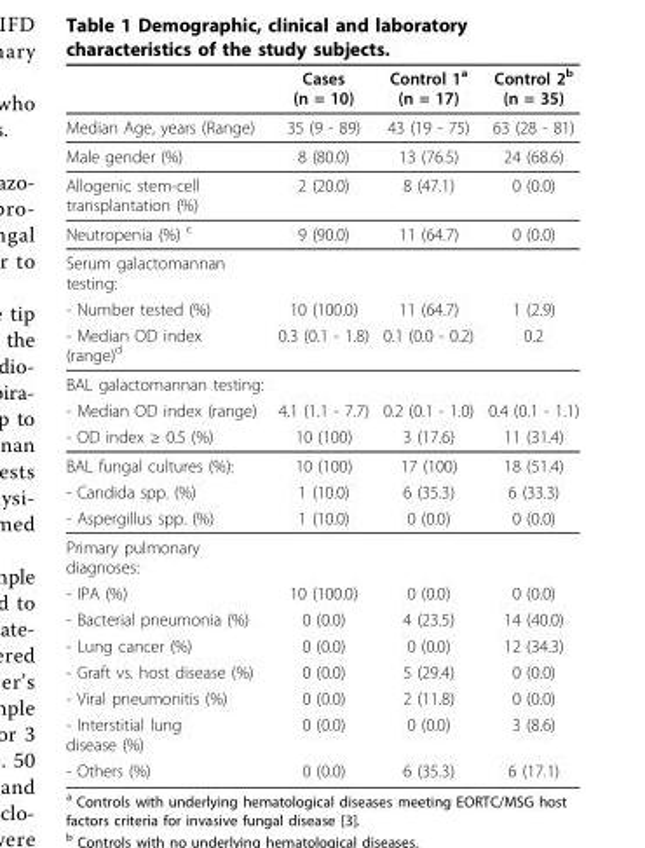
<table><thead><tr><td></td><td>Cases (n = 10)</td><td>Control 1<sup>a</sup> (n = 17)</td><td>Control 2<sup>b</sup> (n = 35)</td></tr></thead><tbody><tr><td>Median Age, years (Range)</td><td>35 (9 - 89)</td><td>43 (19 - 75)</td><td>63 (28 - 81)</td></tr><tr><td>Male gender (%)</td><td>8 (80.0)</td><td>13 (76.5)</td><td>24 (68.6)</td></tr><tr><td>Allogenic stem-cell transplantation (%)</td><td>2 (20.0)</td><td>8 (47.1)</td><td>0 (0.0)</td></tr><tr><td>Neutropenia (%) <sup>c</sup></td><td>9 (90.0)</td><td>11 (64.7)</td><td>0 (0.0)</td></tr><tr><td colspan="4">Serum galactomannan testing:</td></tr><tr><td>- Number tested (%)</td><td>10 (100.0)</td><td>11 (64.7)</td><td>1 (2.9)</td></tr><tr><td>- Median OD index (range)<sup>d</sup></td><td>0.3 (0.1 - 1.8)</td><td>0.1 (0.0 - 0.2)</td><td>0.2</td></tr><tr><td colspan="4">BAL galactomannan testing:</td></tr><tr><td>- Median OD index (range)</td><td>4.1 (1.1 - 7.7)</td><td>0.2 (0.1 - 1.0)</td><td>0.4 (0.1 - 1.1)</td></tr><tr><td>- OD index ≥ 0.5 (%)</td><td>10 (100)</td><td>3 (17.6)</td><td>11 (31.4)</td></tr><tr><td>BAL fungal cultures (%):</td><td>10 (100)</td><td>17 (100)</td><td>18 (51.4)</td></tr><tr><td>- Candida spp. (%)</td><td>1 (10.0)</td><td>6 (35.3)</td><td>6 (33.3)</td></tr><tr><td>- Aspergillus spp. (%)</td><td>1 (10.0)</td><td>0 (0.0)</td><td>0 (0.0)</td></tr><tr><td colspan="4">Primary pulmonary diagnoses:</td></tr><tr><td>- IPA (%)</td><td>10 (100.0)</td><td>0 (0.0)</td><td>0 (0.0)</td></tr><tr><td>- Bacterial pneumonia (%)</td><td>0 (0.0)</td><td>4 (23.5)</td><td>14 (40.0)</td></tr><tr><td>- Lung cancer (%)</td><td>0 (0.0)</td><td>0 (0.0)</td><td>12 (34.3)</td></tr><tr><td>- Graft vs. host disease (%)</td><td>0 (0.0)</td><td>5 (29.4)</td><td>0 (0.0)</td></tr><tr><td>- Viral pneumonitis (%)</td><td>0 (0.0)</td><td>2 (11.8)</td><td>0 (0.0)</td></tr><tr><td>- Interstitial lung disease (%)</td><td>0 (0.0)</td><td>0 (0.0)</td><td>3 (8.6)</td></tr><tr><td>- Others (%)</td><td>0 (0.0)</td><td>6 (35.3)</td><td>6 (17.1)</td></tr></tbody></table>